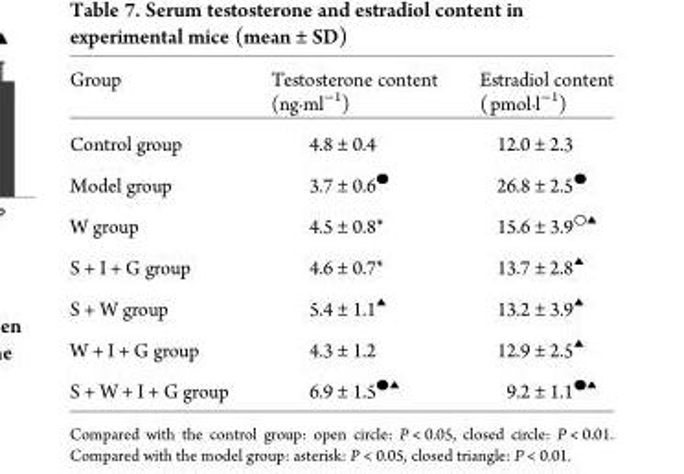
<table><thead><tr><td>Group</td><td>Testosterone content (ng·ml<sup>−1</sup>)</td><td>Estradiol content (pmol·l<sup>−1</sup>)</td></tr></thead><tbody><tr><td>Control group</td><td>4.8 ± 0.4</td><td>12.0 ± 2.3</td></tr><tr><td>Model group</td><td>3.7 ± 0.6<sup>●</sup></td><td>26.8 ± 2.5<sup>●</sup></td></tr><tr><td>W group</td><td>4.5 ± 0.8*</td><td>15.6 ± 3.9○▴</td></tr><tr><td>S + I + G group</td><td>4.6 ± 0.7*</td><td>13.7 ± 2.8▴</td></tr><tr><td>S + W group</td><td>5.4 ± 1.1▴</td><td>13.2 ± 3.9▴</td></tr><tr><td>W + I + G group</td><td>4.3 ± 1.2</td><td>12.9 ± 2.5▴</td></tr><tr><td>S + W + I + G group</td><td>6.9 ± 1.5●▴</td><td>9.2 ± 1.1●▴</td></tr></tbody></table>